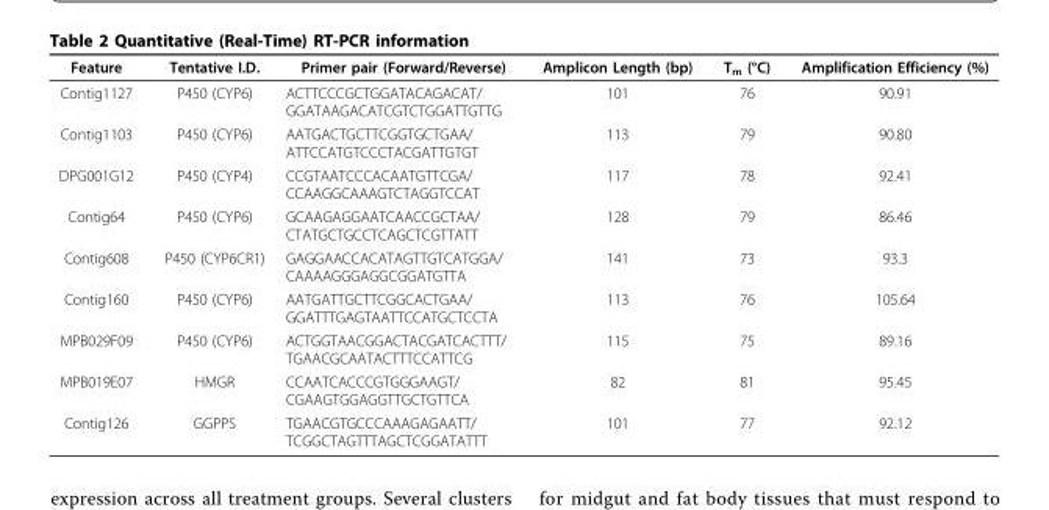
<table><thead><tr><td>Feature</td><td>Tentative I.D.</td><td>Primer pair (Forward/Reverse)</td><td>Amplicon Length (bp)</td><td>T<sub>m</sub> (°C)</td><td>Amplification Efficiency (%)</td></tr></thead><tbody><tr><td>Contig1127</td><td>P450 (CYP6)</td><td>ACTTCCCGCTGGATACAGACAT/ GGATAAGACATCGTCTGGATTGTTG</td><td>101</td><td>76</td><td>90.91</td></tr><tr><td>Contig1103</td><td>P450 (CYP6)</td><td>AATGACTGCTTCGGTGCTGAA/ ATTCCATGTCCCTACGATTGTGT</td><td>113</td><td>79</td><td>90.80</td></tr><tr><td>DPG001G12</td><td>P450 (CYP4)</td><td>CCGTAATCCCACAATGTTCGA/ CCAAGGCAAAGTCTAGGTCCAT</td><td>117</td><td>78</td><td>92.41</td></tr><tr><td>Contig64</td><td>P450 (CYP6)</td><td>GCAAGAGGAATCAACCGCTAA/ CTATGCTGCCTCAGCTCGTTATT</td><td>128</td><td>79</td><td>86.46</td></tr><tr><td>Contig608</td><td>P450 (CYP6CR1)</td><td>GAGGAACCACATAGTTGTCATGGA/ CAAAAGGGAGGCGGATGTTA</td><td>141</td><td>73</td><td>93.3</td></tr><tr><td>Contig160</td><td>P450 (CYP6)</td><td>AATGATTGCTTCGGCACTGAA/ GGATTTGAGTAATTCCATGCTCCTA</td><td>113</td><td>76</td><td>105.64</td></tr><tr><td>MPB029F09</td><td>P450 (CYP6)</td><td>ACTGGTAACGGACTACGATCACTTT/ TGAACGCAATACTTTCCATTCG</td><td>115</td><td>75</td><td>89.16</td></tr><tr><td>MPB019E07</td><td>HMGR</td><td>CCAATCACCCGTGGGAAGT/ CGAAGTGGAGGTTGCTGTTCA</td><td>82</td><td>81</td><td>95.45</td></tr><tr><td>Contig126</td><td>GGPPS</td><td>TGAACGTGCCCAAAGAGAATT/ TCGGCTAGTTTAGCTCGGATATTT</td><td>101</td><td>77</td><td>92.12</td></tr></tbody></table>